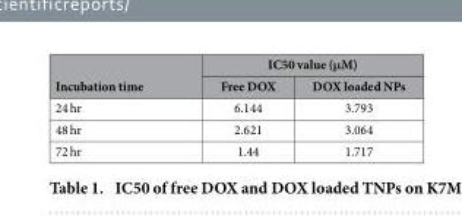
<table><thead><tr><td rowspan="2">Incubation time</td><td colspan="2">IC50 value (μM)</td></tr><tr><td>Free DOX</td><td>DOX loaded NPs</td></tr></thead><tbody><tr><td>24 hr</td><td>6.144</td><td>3.793</td></tr><tr><td>48 hr</td><td>2.621</td><td>3.064</td></tr><tr><td>72 hr</td><td>1.44</td><td>1.717</td></tr></tbody></table>